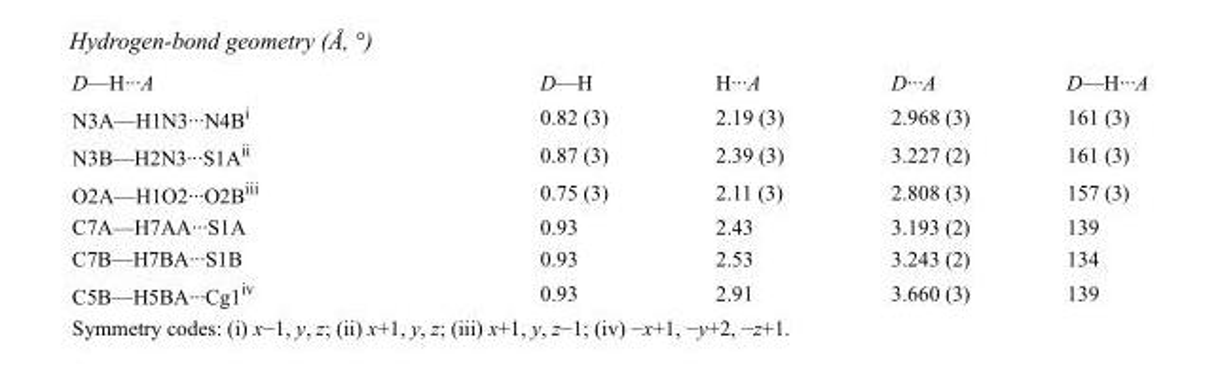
<table><tbody><tr><td>D—H···A</td><td>D—H</td><td>H···A</td><td>D···A</td><td>D—H···A</td></tr><tr><td>N3A—H1N3···N4B<sup>i</sup></td><td>0.82 (3)</td><td>2.19 (3)</td><td>2.968 (3)</td><td>161 (3)</td></tr><tr><td>N3B—H2N3···S1A<sup>ii</sup></td><td>0.87 (3)</td><td>2.39 (3)</td><td>3.227 (2)</td><td>161 (3)</td></tr><tr><td>O2A—H1O2···O2B<sup>iii</sup></td><td>0.75 (3)</td><td>2.11 (3)</td><td>2.808 (3)</td><td>157 (3)</td></tr><tr><td>C7A—H7AA···S1A</td><td>0.93</td><td>2.43</td><td>3.193 (2)</td><td>139</td></tr><tr><td>C7B—H7BA···S1B</td><td>0.93</td><td>2.53</td><td>3.243 (2)</td><td>134</td></tr><tr><td>C5B—H5BA···Cg1<sup>iv</sup></td><td>0.93</td><td>2.91</td><td>3.660 (3)</td><td>139</td></tr></tbody></table>